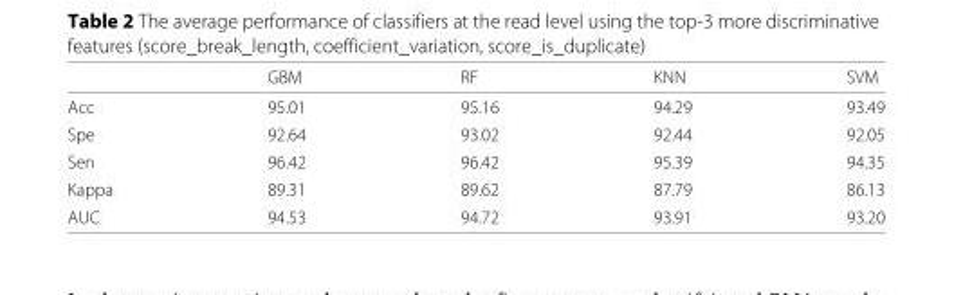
<table><thead><tr><td></td><td>GBM</td><td>RF</td><td>KNN</td><td>SVM</td></tr></thead><tbody><tr><td>Acc</td><td>95.01</td><td>95.16</td><td>94.29</td><td>93.49</td></tr><tr><td>Spe</td><td>92.64</td><td>93.02</td><td>92.44</td><td>92.05</td></tr><tr><td>Sen</td><td>96.42</td><td>96.42</td><td>95.39</td><td>94.35</td></tr><tr><td>Kappa</td><td>89.31</td><td>89.62</td><td>87.79</td><td>86.13</td></tr><tr><td>AUC</td><td>94.53</td><td>94.72</td><td>93.91</td><td>93.20</td></tr></tbody></table>